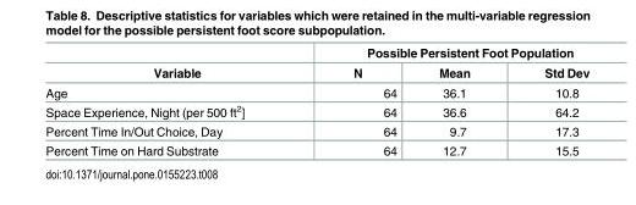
<table><thead><tr><td rowspan="2">Variable</td><td colspan="3">Possible Persistent Foot Population</td></tr><tr><td>N</td><td>Mean</td><td>Std Dev</td></tr></thead><tbody><tr><td>Age</td><td>64</td><td>36.1</td><td>10.8</td></tr><tr><td>Space Experience, Night (per 500 ft<sup>2</sup>]</td><td>64</td><td>36.6</td><td>64.2</td></tr><tr><td>Percent Time In/Out Choice, Day</td><td>64</td><td>9.7</td><td>17.3</td></tr><tr><td>Percent Time on Hard Substrate</td><td>64</td><td>12.7</td><td>15.5</td></tr></tbody></table>